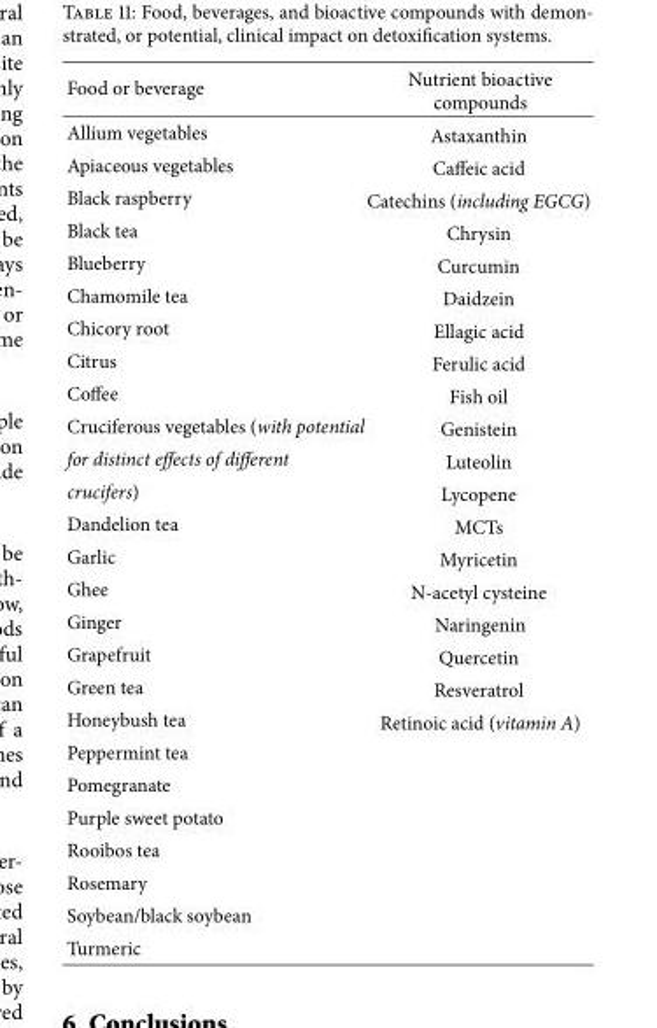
<table><thead><tr><td>Food or beverage</td><td>Nutrient bioactive compounds</td></tr></thead><tbody><tr><td>Allium vegetables</td><td>Astaxanthin</td></tr><tr><td>Apiaceous vegetables</td><td>Caffeic acid</td></tr><tr><td>Black raspberry</td><td>Catechins (including EGCG)</td></tr><tr><td>Black tea</td><td>Chrysin</td></tr><tr><td>Blueberry</td><td>Curcumin</td></tr><tr><td>Chamomile tea</td><td>Daidzein</td></tr><tr><td>Chicory root</td><td>Ellagic acid</td></tr><tr><td>Citrus</td><td>Ferulic acid</td></tr><tr><td>Coffee</td><td>Fish oil</td></tr><tr><td>Cruciferous vegetables (with potential</td><td>Genistein</td></tr><tr><td>for distinct effects of different</td><td>Luteolin</td></tr><tr><td>crucifers)</td><td>Lycopene</td></tr><tr><td>Dandelion tea</td><td>MCTs</td></tr><tr><td>Garlic</td><td>Myricetin</td></tr><tr><td>Ghee</td><td>N-acetyl cysteine</td></tr><tr><td>Ginger</td><td>Naringenin</td></tr><tr><td>Grapefruit</td><td>Quercetin</td></tr><tr><td>Green tea</td><td>Resveratrol</td></tr><tr><td>Honeybush tea</td><td>Retinoic acid (vitamin A)</td></tr><tr><td colspan="2">Peppermint tea</td></tr><tr><td colspan="2">Pomegranate</td></tr><tr><td colspan="2">Purple sweet potato</td></tr><tr><td colspan="2">Rooibos tea</td></tr><tr><td colspan="2">Rosemary</td></tr><tr><td colspan="2">Soybean/black soybean</td></tr><tr><td>Turmeric</td><td></td></tr></tbody></table>